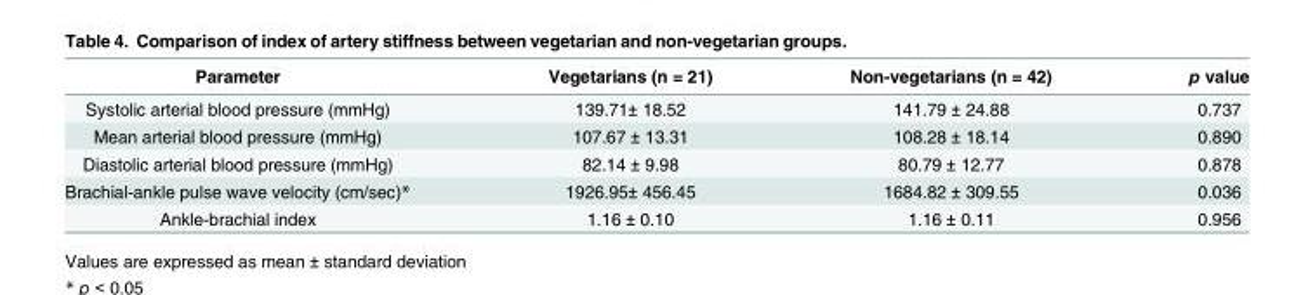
<table><thead><tr><td>Parameter</td><td>Vegetarians (n = 21)</td><td>Non-vegetarians (n = 42)</td><td>p value</td></tr></thead><tbody><tr><td>Systolic arterial blood pressure (mmHg)</td><td>139.71± 18.52</td><td>141.79 ± 24.88</td><td>0.737</td></tr><tr><td>Mean arterial blood pressure (mmHg)</td><td>107.67 ± 13.31</td><td>108.28 ± 18.14</td><td>0.890</td></tr><tr><td>Diastolic arterial blood pressure (mmHg)</td><td>82.14 ± 9.98</td><td>80.79 ± 12.77</td><td>0.878</td></tr><tr><td>Brachial-ankle pulse wave velocity (cm/sec)*</td><td>1926.95± 456.45</td><td>1684.82 ± 309.55</td><td>0.036</td></tr><tr><td>Ankle-brachial index</td><td>1.16 ± 0.10</td><td>1.16 ± 0.11</td><td>0.956</td></tr></tbody></table>